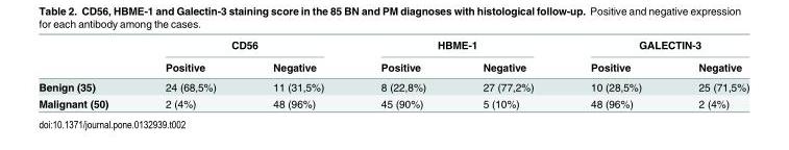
<table><thead><tr><td rowspan="2"></td><td colspan="2">CD56</td><td colspan="2">HBME-1</td><td colspan="2">GALECTIN-3</td></tr><tr><td>Positive</td><td>Negative</td><td>Positive</td><td>Negative</td><td>Positive</td><td>Negative</td></tr></thead><tbody><tr><td>Benign (35)</td><td>24 (68,5%)</td><td>11 (31,5%)</td><td>8 (22,8%)</td><td>27 (77,2%)</td><td>10 (28,5%)</td><td>25 (71,5%)</td></tr><tr><td>Malignant (50)</td><td>2 (4%)</td><td>48 (96%)</td><td>45 (90%)</td><td>5 (10%)</td><td>48 (96%)</td><td>2 (4%)</td></tr></tbody></table>